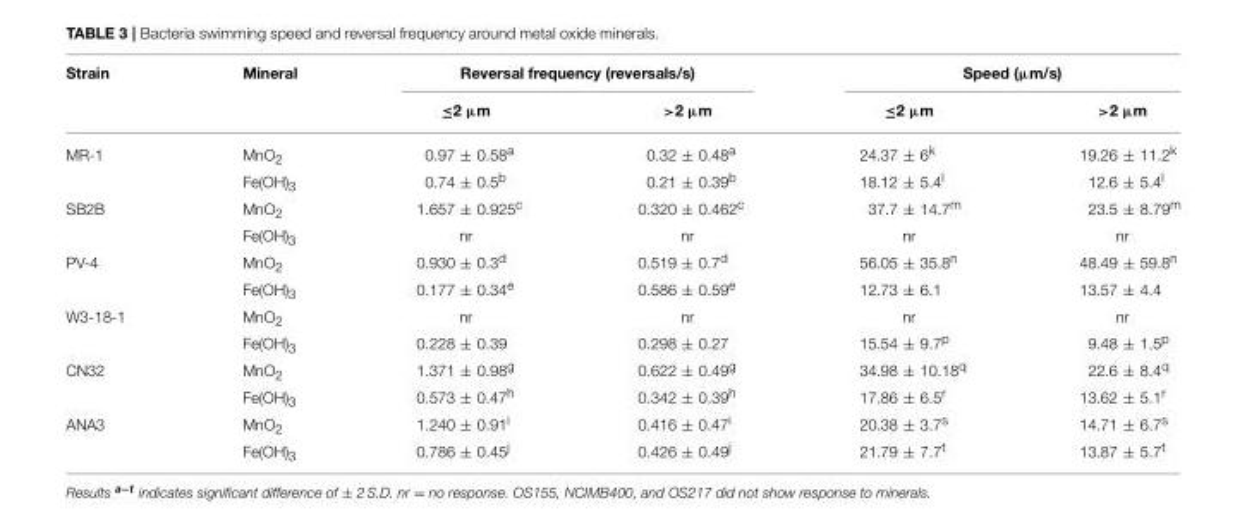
<table><thead><tr><td rowspan="2">Strain</td><td rowspan="2">Mineral</td><td colspan="2">Reversal frequency (reversals/s)</td><td colspan="2">Speed (µm/s)</td></tr><tr><td>≤2 µm</td><td>&gt;2 µm</td><td>≤2 µm</td><td>&gt;2 µm</td></tr></thead><tbody><tr><td rowspan="2">MR-1</td><td>MnO<sub>2</sub></td><td>0.97 ± 0.58<sup>a</sup></td><td>0.32 ± 0.48<sup>a</sup></td><td>24.37 ± 6<sup>k</sup></td><td>19.26 ± 11.2<sup>k</sup></td></tr><tr><td>Fe(OH)<sub>3</sub></td><td>0.74 ± 0.5<sup>b</sup></td><td>0.21 ± 0.39<sup>b</sup></td><td>18.12 ± 5.4<sup>l</sup></td><td>12.6 ± 5.4<sup>l</sup></td></tr><tr><td rowspan="2">SB2B</td><td>MnO<sub>2</sub></td><td>1.657 ± 0.925<sup>c</sup></td><td>0.320 ± 0.462<sup>c</sup></td><td>37.7 ± 14.7<sup>m</sup></td><td>23.5 ± 8.79<sup>m</sup></td></tr><tr><td>Fe(OH)<sub>3</sub></td><td>nr</td><td>nr</td><td>nr</td><td>nr</td></tr><tr><td rowspan="2">PV-4</td><td>MnO<sub>2</sub></td><td>0.930 ± 0.3<sup>d</sup></td><td>0.519 ± 0.7<sup>d</sup></td><td>56.05 ± 35.8<sup>n</sup></td><td>48.49 ± 59.8<sup>n</sup></td></tr><tr><td>Fe(OH)<sub>3</sub></td><td>0.177 ± 0.34<sup>e</sup></td><td>0.586 ± 0.59<sup>e</sup></td><td>12.73 ± 6.1</td><td>13.57 ± 4.4</td></tr><tr><td rowspan="2">W3-18-1</td><td>MnO<sub>2</sub></td><td>nr</td><td>nr</td><td>nr</td><td>nr</td></tr><tr><td>Fe(OH)<sub>3</sub></td><td>0.228 ± 0.39</td><td>0.298 ± 0.27</td><td>15.54 ± 9.7<sup>p</sup></td><td>9.48 ± 1.5<sup>p</sup></td></tr><tr><td rowspan="2">CN32</td><td>MnO<sub>2</sub></td><td>1.371 ± 0.98<sup>g</sup></td><td>0.622 ± 0.49<sup>g</sup></td><td>34.98 ± 10.18<sup>q</sup></td><td>22.6 ± 8.4<sup>q</sup></td></tr><tr><td>Fe(OH)<sub>3</sub></td><td>0.573 ± 0.47<sup>h</sup></td><td>0.342 ± 0.39<sup>h</sup></td><td>17.86 ± 6.5<sup>r</sup></td><td>13.62 ± 5.1<sup>r</sup></td></tr><tr><td rowspan="2">ANA3</td><td>MnO<sub>2</sub></td><td>1.240 ± 0.91<sup>i</sup></td><td>0.416 ± 0.47<sup>i</sup></td><td>20.38 ± 3.7<sup>s</sup></td><td>14.71 ± 6.7<sup>s</sup></td></tr><tr><td>Fe(OH)<sub>3</sub></td><td>0.786 ± 0.45<sup>j</sup></td><td>0.426 ± 0.49<sup>j</sup></td><td>21.79 ± 7.7<sup>t</sup></td><td>13.87 ± 5.7<sup>t</sup></td></tr></tbody></table>